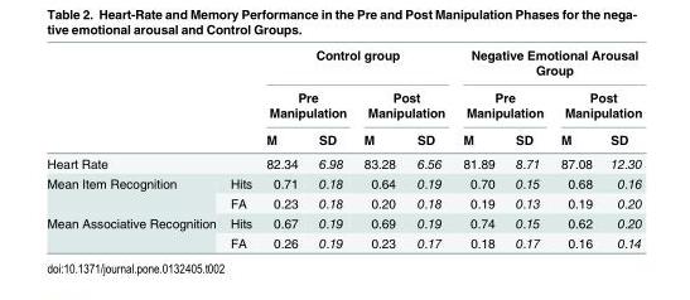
<table><thead><tr><td rowspan="3"></td><td rowspan="3"></td><td colspan="4">Control group</td><td colspan="4">Negative Emotional Arousal Group</td></tr><tr><td colspan="2">Pre Manipulation</td><td colspan="2">Post Manipulation</td><td colspan="2">Pre Manipulation</td><td colspan="2">Post Manipulation</td></tr><tr><td>M</td><td>SD</td><td>M</td><td>SD</td><td>M</td><td>SD</td><td>M</td><td>SD</td></tr></thead><tbody><tr><td>Heart Rate</td><td></td><td>82.34</td><td>6.98</td><td>83.28</td><td>6.56</td><td>81.89</td><td>8.71</td><td>87.08</td><td>12.30</td></tr><tr><td rowspan="2">Mean Item Recognition</td><td>Hits</td><td>0.71</td><td>0.18</td><td>0.64</td><td>0.19</td><td>0.70</td><td>0.15</td><td>0.68</td><td>0.16</td></tr><tr><td>FA</td><td>0.23</td><td>0.18</td><td>0.20</td><td>0.18</td><td>0.19</td><td>0.13</td><td>0.19</td><td>0.20</td></tr><tr><td rowspan="2">Mean Associative Recognition</td><td>Hits</td><td>0.67</td><td>0.19</td><td>0.69</td><td>0.19</td><td>0.74</td><td>0.15</td><td>0.62</td><td>0.20</td></tr><tr><td>FA</td><td>0.26</td><td>0.19</td><td>0.23</td><td>0.17</td><td>0.18</td><td>0.17</td><td>0.16</td><td>0.14</td></tr></tbody></table>